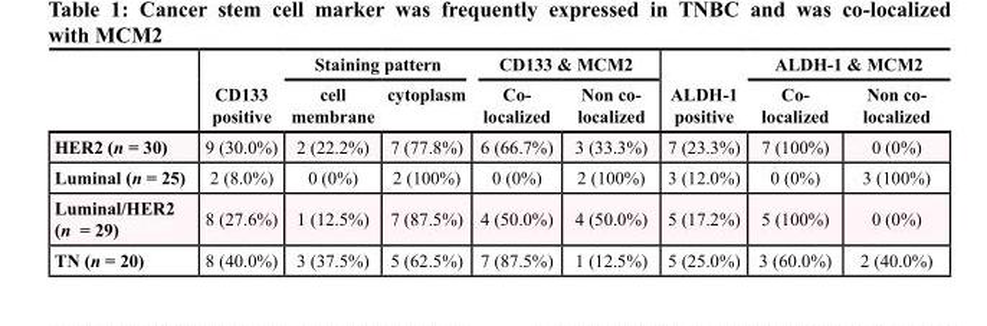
<table><thead><tr><td rowspan="2"></td><td rowspan="2">CD133 positive</td><td colspan="2">Staining pattern</td><td colspan="2">CD133 &amp; MCM2</td><td rowspan="2">ALDH-1 positive</td><td colspan="2">ALDH-1 &amp; MCM2</td></tr><tr><td>cell membrane</td><td>cytoplasm</td><td>Co- localized</td><td>Non co- localized</td><td>Co- localized</td><td>Non co- localized</td></tr></thead><tbody><tr><td>HER2 (n = 30)</td><td>9 (30.0%)</td><td>2 (22.2%)</td><td>7 (77.8%)</td><td>6 (66.7%)</td><td>3 (33.3%)</td><td>7 (23.3%)</td><td>7 (100%)</td><td>0 (0%)</td></tr><tr><td>Luminal (n = 25)</td><td>2 (8.0%)</td><td>0 (0%)</td><td>2 (100%)</td><td>0 (0%)</td><td>2 (100%)</td><td>3 (12.0%)</td><td>0 (0%)</td><td>3 (100%)</td></tr><tr><td>Luminal/HER2 (n = 29)</td><td>8 (27.6%)</td><td>1 (12.5%)</td><td>7 (87.5%)</td><td>4 (50.0%)</td><td>4 (50.0%)</td><td>5 (17.2%)</td><td>5 (100%)</td><td>0 (0%)</td></tr><tr><td>TN (n = 20)</td><td>8 (40.0%)</td><td>3 (37.5%)</td><td>5 (62.5%)</td><td>7 (87.5%)</td><td>1 (12.5%)</td><td>5 (25.0%)</td><td>3 (60.0%)</td><td>2 (40.0%)</td></tr></tbody></table>